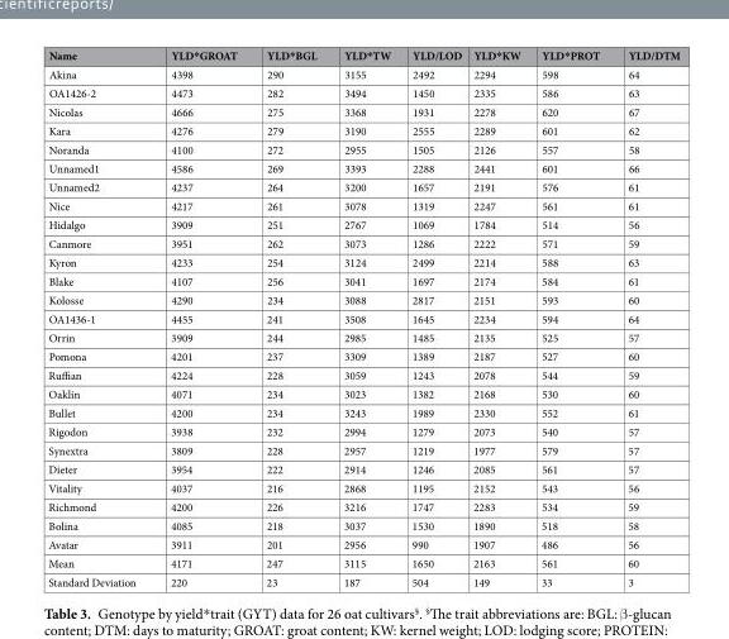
<table><thead><tr><td>Name</td><td>YLD*GROAT</td><td>YLD*BGL</td><td>YLD*TW</td><td>YLD/LOD</td><td>YLD*KW</td><td>YLD*PROT</td><td>YLD/DTM</td></tr></thead><tbody><tr><td>Akina</td><td>4398</td><td>290</td><td>3155</td><td>2492</td><td>2294</td><td>598</td><td>64</td></tr><tr><td>OA1426-2</td><td>4473</td><td>282</td><td>3494</td><td>1450</td><td>2335</td><td>586</td><td>63</td></tr><tr><td>Nicolas</td><td>4666</td><td>275</td><td>3368</td><td>1931</td><td>2278</td><td>620</td><td>67</td></tr><tr><td>Kara</td><td>4276</td><td>279</td><td>3190</td><td>2555</td><td>2289</td><td>601</td><td>62</td></tr><tr><td>Noranda</td><td>4100</td><td>272</td><td>2955</td><td>1505</td><td>2126</td><td>557</td><td>58</td></tr><tr><td>Unnamed1</td><td>4586</td><td>269</td><td>3393</td><td>2288</td><td>2441</td><td>601</td><td>66</td></tr><tr><td>Unnamed2</td><td>4237</td><td>264</td><td>3200</td><td>1657</td><td>2191</td><td>576</td><td>61</td></tr><tr><td>Nice</td><td>4217</td><td>261</td><td>3078</td><td>1319</td><td>2247</td><td>561</td><td>61</td></tr><tr><td>Hidalgo</td><td>3909</td><td>251</td><td>2767</td><td>1069</td><td>1784</td><td>514</td><td>56</td></tr><tr><td>Canmore</td><td>3951</td><td>262</td><td>3073</td><td>1286</td><td>2222</td><td>571</td><td>59</td></tr><tr><td>Kyron</td><td>4233</td><td>254</td><td>3124</td><td>2499</td><td>2214</td><td>588</td><td>63</td></tr><tr><td>Blake</td><td>4107</td><td>256</td><td>3041</td><td>1697</td><td>2174</td><td>584</td><td>61</td></tr><tr><td>Kolosse</td><td>4290</td><td>234</td><td>3088</td><td>2817</td><td>2151</td><td>593</td><td>60</td></tr><tr><td>OA1436-1</td><td>4455</td><td>241</td><td>3508</td><td>1645</td><td>2234</td><td>594</td><td>64</td></tr><tr><td>Orrin</td><td>3909</td><td>244</td><td>2985</td><td>1485</td><td>2135</td><td>525</td><td>57</td></tr><tr><td>Pomona</td><td>4201</td><td>237</td><td>3309</td><td>1389</td><td>2187</td><td>527</td><td>60</td></tr><tr><td>Ruffian</td><td>4224</td><td>228</td><td>3059</td><td>1243</td><td>2078</td><td>544</td><td>59</td></tr><tr><td>Oaklin</td><td>4071</td><td>234</td><td>3023</td><td>1382</td><td>2168</td><td>530</td><td>60</td></tr><tr><td>Bullet</td><td>4200</td><td>234</td><td>3243</td><td>1989</td><td>2330</td><td>552</td><td>61</td></tr><tr><td>Rigodon</td><td>3938</td><td>232</td><td>2994</td><td>1279</td><td>2073</td><td>540</td><td>57</td></tr><tr><td>Synextra</td><td>3809</td><td>228</td><td>2957</td><td>1219</td><td>1977</td><td>579</td><td>57</td></tr><tr><td>Dieter</td><td>3954</td><td>222</td><td>2914</td><td>1246</td><td>2085</td><td>561</td><td>57</td></tr><tr><td>Vitality</td><td>4037</td><td>216</td><td>2868</td><td>1195</td><td>2152</td><td>543</td><td>56</td></tr><tr><td>Richmond</td><td>4200</td><td>226</td><td>3216</td><td>1747</td><td>2283</td><td>534</td><td>59</td></tr><tr><td>Bolina</td><td>4085</td><td>218</td><td>3037</td><td>1530</td><td>1890</td><td>518</td><td>58</td></tr><tr><td>Avatar</td><td>3911</td><td>201</td><td>2956</td><td>990</td><td>1907</td><td>486</td><td>56</td></tr><tr><td>Mean</td><td>4171</td><td>247</td><td>3115</td><td>1650</td><td>2163</td><td>561</td><td>60</td></tr><tr><td>Standard Deviation</td><td>220</td><td>23</td><td>187</td><td>504</td><td>149</td><td>33</td><td>3</td></tr></tbody></table>